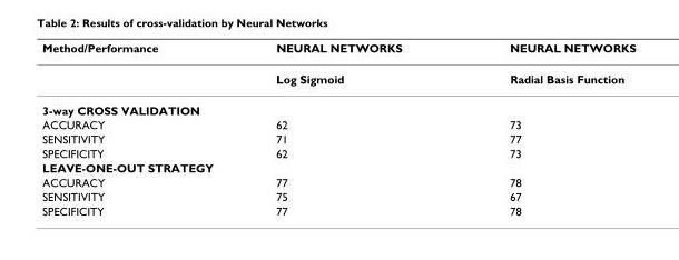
<table><thead><tr><td>Method/Performance</td><td>NEURAL NETWORKS</td><td>NEURAL NETWORKS</td></tr></thead><tbody><tr><td></td><td>Log Sigmoid</td><td>Radial Basis Function</td></tr><tr><td colspan="3">3-way CROSS VALIDATION</td></tr><tr><td>ACCURACY</td><td>62</td><td>73</td></tr><tr><td>SENSITIVITY</td><td>71</td><td>77</td></tr><tr><td>SPECIFICITY</td><td>62</td><td>73</td></tr><tr><td colspan="3">LEAVE-ONE-OUT STRATEGY</td></tr><tr><td>ACCURACY</td><td>77</td><td>78</td></tr><tr><td>SENSITIVITY</td><td>75</td><td>67</td></tr><tr><td>SPECIFICITY</td><td>77</td><td>78</td></tr></tbody></table>